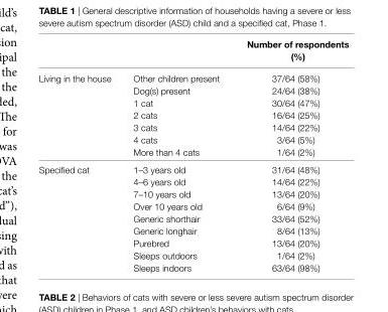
<table><thead><tr><td></td><td></td><td>number of respondents (%)</td></tr></thead><tbody><tr><td rowspan="7">Living in the house</td><td>Other children present</td><td>37/64 (58%)</td></tr><tr><td>Dog(s) present</td><td>24/64 (38%)</td></tr><tr><td>1 cat</td><td>30/64 (47%)</td></tr><tr><td>2 cats</td><td>16/64 (25%)</td></tr><tr><td>3 cats</td><td>14/64 (22%)</td></tr><tr><td>4 cats</td><td>3/64 (5%)</td></tr><tr><td>More than 4 cats</td><td>1/64 (2%)</td></tr><tr><td rowspan="9">Specified cat</td><td>1–3 years old</td><td>31/64 (48%)</td></tr><tr><td>4–6 years old</td><td>14/64 (22%)</td></tr><tr><td>7–10 years old</td><td>13/64 (20%)</td></tr><tr><td>Over 10 years old</td><td>6/64 (9%)</td></tr><tr><td>Generic shorthair</td><td>33/64 (52%)</td></tr><tr><td>Generic longhair</td><td>8/64 (13%)</td></tr><tr><td>Purebred</td><td>13/64 (20%)</td></tr><tr><td>Sleeps outdoors</td><td>1/64 (2%)</td></tr><tr><td>Sleeps indoors</td><td>63/64 (98%)</td></tr></tbody></table>